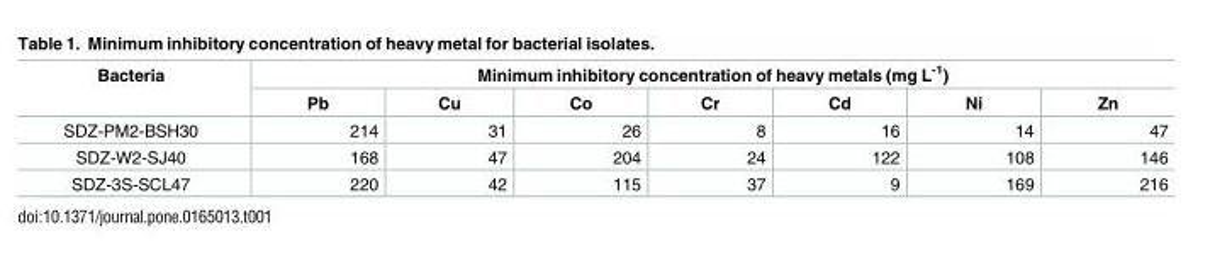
<table><thead><tr><td rowspan="2">Bacteria</td><td colspan="7">Minimum inhibitory concentration of heavy metals (mg L<sup>-1</sup>)</td></tr><tr><td>Pb</td><td>Cu</td><td>Co</td><td>Cr</td><td>Cd</td><td>Ni</td><td>Zn</td></tr></thead><tbody><tr><td>SDZ-PM2-BSH30</td><td>214</td><td>31</td><td>26</td><td>8</td><td>16</td><td>14</td><td>47</td></tr><tr><td>SDZ-W2-SJ40</td><td>168</td><td>47</td><td>204</td><td>24</td><td>122</td><td>108</td><td>146</td></tr><tr><td>SDZ-3S-SCL47</td><td>220</td><td>42</td><td>115</td><td>37</td><td>9</td><td>169</td><td>216</td></tr></tbody></table>